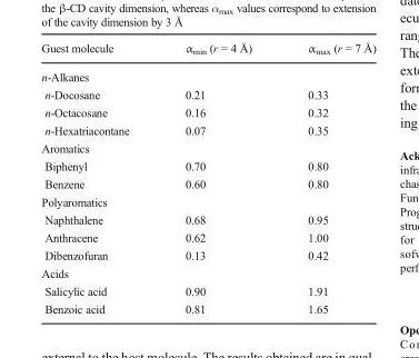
<table><thead><tr><td>Guest molecule</td><td>α<sub>min</sub> (r = 4 Å)</td><td>α<sub>max</sub> (r = 7 Å)</td></tr></thead><tbody><tr><td colspan="3">n-Alkanes</td></tr><tr><td>n-Docosane</td><td>0.21</td><td>0.33</td></tr><tr><td>n-Octacosane</td><td>0.16</td><td>0.32</td></tr><tr><td>n-Hexatriacontane</td><td>0.07</td><td>0.35</td></tr><tr><td colspan="3">Aromatics</td></tr><tr><td>Biphenyl</td><td>0.70</td><td>0.80</td></tr><tr><td>Benzene</td><td>0.60</td><td>0.80</td></tr><tr><td colspan="3">Polyaromatics</td></tr><tr><td>Naphthalene</td><td>0.68</td><td>0.95</td></tr><tr><td>Anthracene</td><td>0.62</td><td>1.00</td></tr><tr><td>Dibenzofuran</td><td>0.13</td><td>0.42</td></tr><tr><td colspan="3">Acids</td></tr><tr><td>Salicylic acid</td><td>0.90</td><td>1.91</td></tr><tr><td>Benzoic acid</td><td>0.81</td><td>1.65</td></tr></tbody></table>